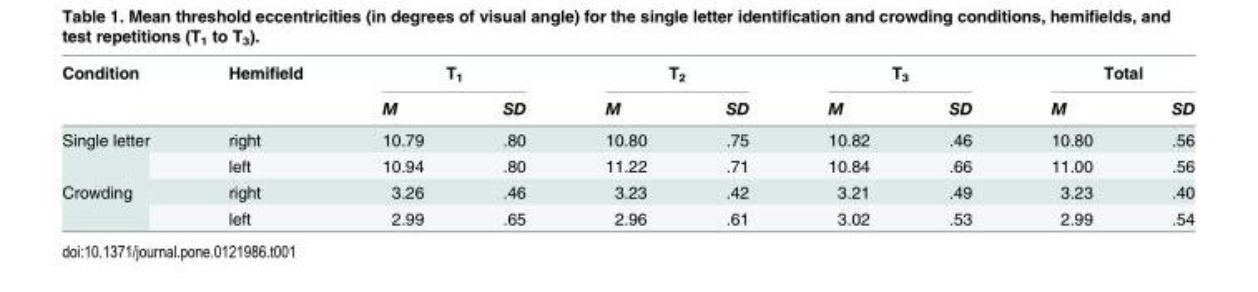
<table><thead><tr><td rowspan="2">Condition</td><td rowspan="2">Hemifield</td><td colspan="2">T<sub>1</sub></td><td colspan="2">T<sub>2</sub></td><td colspan="2">T<sub>3</sub></td><td colspan="2">Total</td></tr><tr><td>M</td><td>SD</td><td>M</td><td>SD</td><td>M</td><td>SD</td><td>M</td><td>SD</td></tr></thead><tbody><tr><td rowspan="2">Single letter</td><td>right</td><td>10.79</td><td>.80</td><td>10.80</td><td>.75</td><td>10.82</td><td>.46</td><td>10.80</td><td>.56</td></tr><tr><td>left</td><td>10.94</td><td>.80</td><td>11.22</td><td>.71</td><td>10.84</td><td>.66</td><td>11.00</td><td>.56</td></tr><tr><td rowspan="2">Crowding</td><td>right</td><td>3.26</td><td>.46</td><td>3.23</td><td>.42</td><td>3.21</td><td>.49</td><td>3.23</td><td>.40</td></tr><tr><td>left</td><td>2.99</td><td>.65</td><td>2.96</td><td>.61</td><td>3.02</td><td>.53</td><td>2.99</td><td>.54</td></tr></tbody></table>